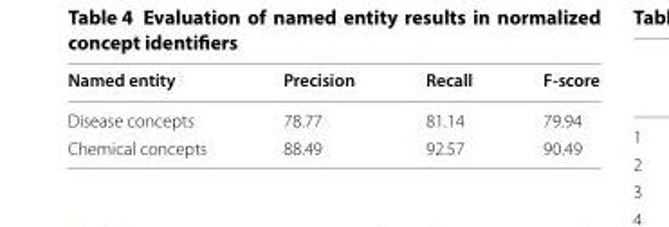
<table><thead><tr><td>Named entity</td><td>Precision</td><td>Recall</td><td>F‑score</td></tr></thead><tbody><tr><td>Disease concepts</td><td>78.77</td><td>81.14</td><td>79.94</td></tr><tr><td>Chemical concepts</td><td>88.49</td><td>92.57</td><td>90.49</td></tr></tbody></table>